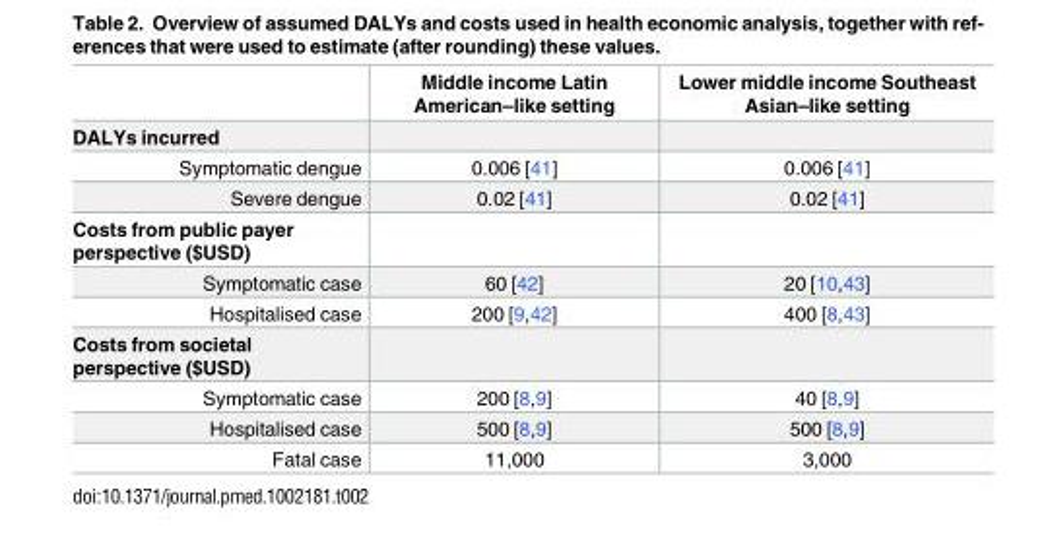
<table><thead><tr><td></td><td>Middle income Latin American–like setting</td><td>Lower middle income Southeast Asian–like setting</td></tr></thead><tbody><tr><td colspan="3">DALYs incurred</td></tr><tr><td>Symptomatic dengue</td><td>0.006 [41]</td><td>0.006 [41]</td></tr><tr><td>Severe dengue</td><td>0.02 [41]</td><td>0.02 [41]</td></tr><tr><td colspan="3">Costs from public payer perspective ($USD)</td></tr><tr><td>Symptomatic case</td><td>60 [42]</td><td>20 [10,43]</td></tr><tr><td>Hospitalised case</td><td>200 [9,42]</td><td>400 [8,43]</td></tr><tr><td colspan="3">Costs from societal perspective ($USD)</td></tr><tr><td>Symptomatic case</td><td>200 [8,9]</td><td>40 [8,9]</td></tr><tr><td>Hospitalised case</td><td>500 [8,9]</td><td>500 [8,9]</td></tr><tr><td>Fatal case</td><td>11,000</td><td>3,000</td></tr></tbody></table>